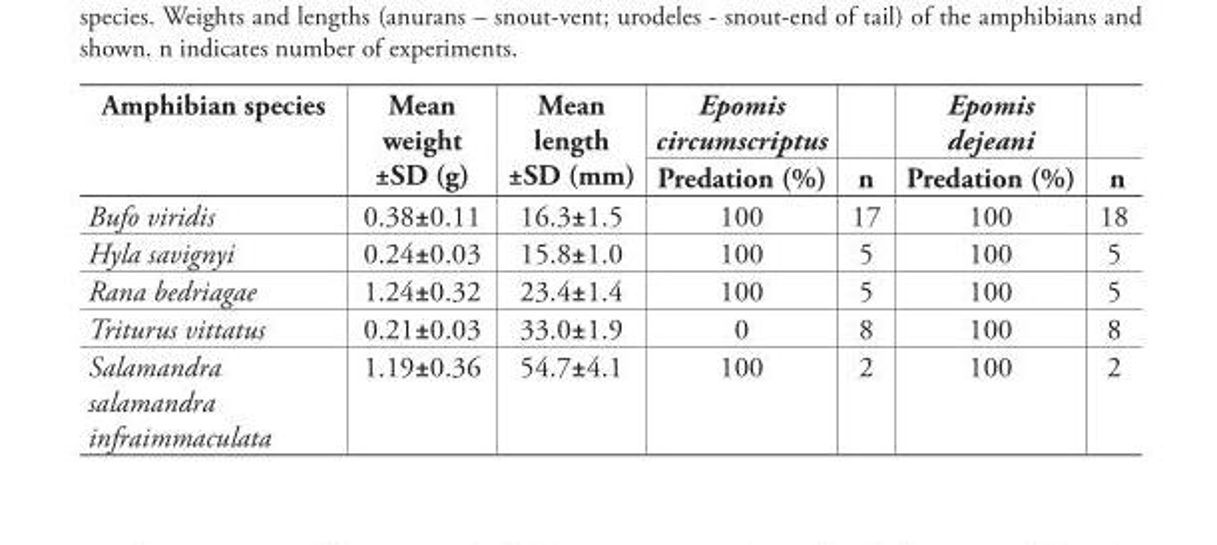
<table><thead><tr><td rowspan="2">Amphibian species</td><td rowspan="2">Mean weight ±SD (g)</td><td rowspan="2">Mean length ±SD (mm)</td><td rowspan="2">Epomis circumscriptus Predation (%)</td><td rowspan="2">n</td><td rowspan="2">Epomis dejeani Predation (%)</td><td rowspan="2">n</td></tr><tr></tr></thead><tbody><tr><td>Bufo viridis</td><td>0.38±0.11</td><td>16.3±1.5</td><td>100</td><td>17</td><td>100</td><td>18</td></tr><tr><td>Hyla savignyi</td><td>0.24±0.03</td><td>15.8±1.0</td><td>100</td><td>5</td><td>100</td><td>5</td></tr><tr><td>Rana bedriagae</td><td>1.24±0.32</td><td>23.4±1.4</td><td>100</td><td>5</td><td>100</td><td>5</td></tr><tr><td>Triturus vittatus</td><td>0.21±0.03</td><td>33.0±1.9</td><td>0</td><td>8</td><td>100</td><td>8</td></tr><tr><td>Salamandra salamandra infraimmaculata</td><td>1.19±0.36</td><td>54.7±4.1</td><td>100</td><td>2</td><td>100</td><td>2</td></tr></tbody></table>